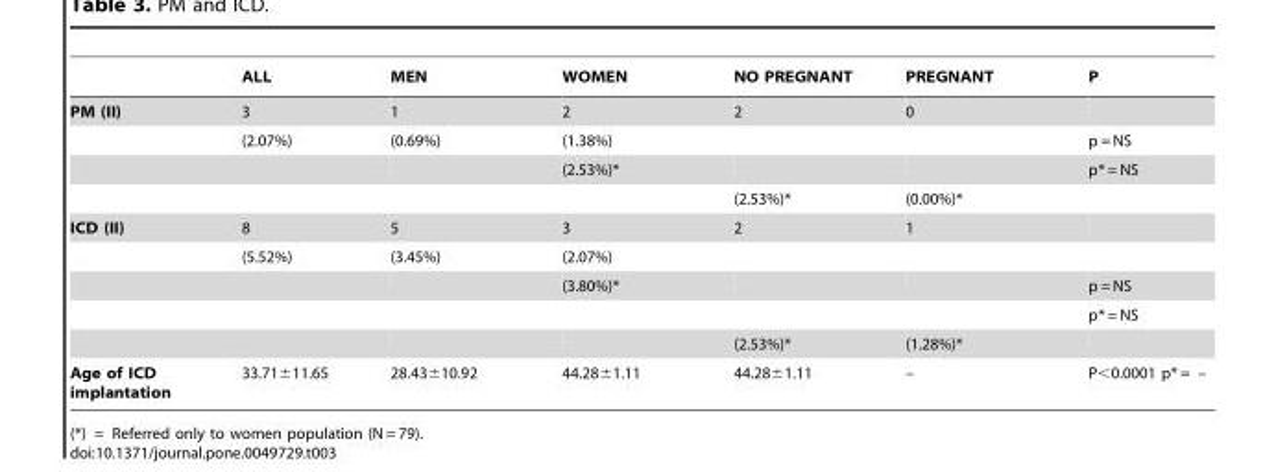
<table><thead><tr><td></td><td>ALL</td><td>MEN</td><td>WOMEN</td><td>NO PREGNANT</td><td>PREGNANT</td><td>P</td></tr></thead><tbody><tr><td rowspan="4">PM (II)</td><td>3</td><td>1</td><td>2</td><td>2</td><td>0</td><td></td></tr><tr><td>(2.07%)</td><td>(0.69%)</td><td>(1.38%)</td><td></td><td></td><td>p = NS</td></tr><tr><td></td><td></td><td>(2.53%)*</td><td></td><td></td><td>p* = NS</td></tr><tr><td></td><td></td><td></td><td>(2.53%)*</td><td>(0.00%)*</td><td></td></tr><tr><td rowspan="5">ICD (II)</td><td>8</td><td>5</td><td>3</td><td>2</td><td>1</td><td></td></tr><tr><td>(5.52%)</td><td>(3.45%)</td><td>(2.07%)</td><td></td><td></td><td></td></tr><tr><td></td><td></td><td>(3.80%)*</td><td></td><td></td><td>p = NS</td></tr><tr><td></td><td></td><td></td><td></td><td></td><td>p* = NS</td></tr><tr><td></td><td></td><td></td><td>(2.53%)*</td><td>(1.28%)*</td><td></td></tr><tr><td>Age of ICD implantation</td><td>33.71±11.65</td><td>28.43±10.92</td><td>44.28±1.11</td><td>44.28±1.11</td><td>–</td><td>P&lt;0.0001 p* = –</td></tr></tbody></table>